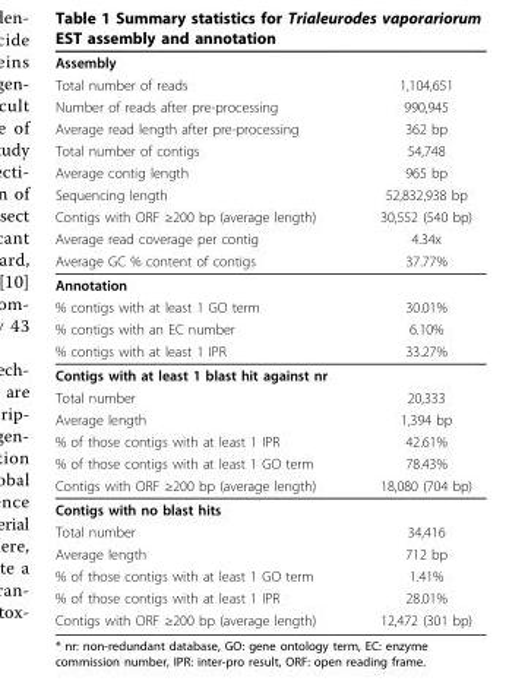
<table><thead><tr><td rowspan="10">Assembly Total number of reads Number of reads after pre-processing Average read length after pre-processing Total number of contigs Average contig length Sequencing length Contigs with ORF ≥200 bp (average length) Average read coverage per contig Average GC % content of contigs</td><td rowspan="10">1,104,651 990,945 362 bp 54,748 965 bp 52,832,938 bp 30,552 (540 bp) 4.34x 37.77%</td></tr><tr></tr><tr></tr><tr></tr><tr></tr><tr></tr><tr></tr><tr></tr><tr></tr><tr></tr></thead><tbody><tr><td colspan="2">Annotation</td></tr><tr><td>% contigs with at least 1 GO term</td><td>30.01%</td></tr><tr><td>% contigs with an EC number</td><td>6.10%</td></tr><tr><td>% contigs with at least 1 IPR</td><td>33.27%</td></tr><tr><td colspan="2">Contigs with at least 1 blast hit against nr</td></tr><tr><td>Total number</td><td>20,333</td></tr><tr><td>Average length</td><td>1,394 bp</td></tr><tr><td>% of those contigs with at least 1 IPR</td><td>42.61%</td></tr><tr><td>% of those contigs with at least 1 GO term</td><td>78.43%</td></tr><tr><td>Contigs with ORF ≥200 bp (average length)</td><td>18,080 (704 bp)</td></tr><tr><td colspan="2">Contigs with no blast hits</td></tr><tr><td>Total number</td><td>34,416</td></tr><tr><td>Average length</td><td>712 bp</td></tr><tr><td>% of those contigs with at least 1 GO term</td><td>1.41%</td></tr><tr><td>% of those contigs with at least 1 IPR</td><td>28.01%</td></tr><tr><td>Contigs with ORF ≥200 bp (average length)</td><td>12,472 (301 bp)</td></tr></tbody></table>